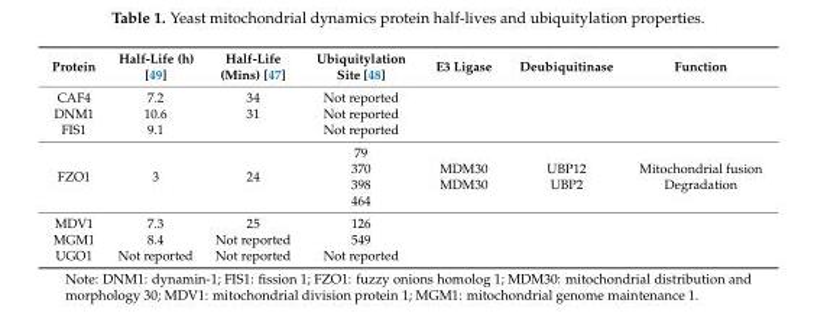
<table><thead><tr><td>Protein</td><td>Half-Life (h) [49]</td><td>Half-Life (Mins) [47]</td><td>Ubiquitylation Site [48]</td><td>E3 Ligase</td><td>Deubiquitinase</td><td>Function</td></tr></thead><tbody><tr><td>CAF4</td><td>7.2</td><td>34</td><td>Not reported</td><td></td><td></td><td></td></tr><tr><td>DNM1</td><td>10.6</td><td>31</td><td>Not reported</td><td></td><td></td><td></td></tr><tr><td>FIS1</td><td>9.1</td><td></td><td>Not reported</td><td></td><td></td><td></td></tr><tr><td>FZO1</td><td>3</td><td>24</td><td>79 370 398 464</td><td>MDM30 MDM30</td><td>UBP12 UBP2</td><td>Mitochondrial fusion Degradation</td></tr><tr><td>MDV1</td><td>7.3</td><td>25</td><td>126</td><td></td><td></td><td></td></tr><tr><td>MGM1</td><td>8.4</td><td>Not reported</td><td>549</td><td></td><td></td><td></td></tr><tr><td>UGO1</td><td>Not reported</td><td>Not reported</td><td>Not reported</td><td></td><td></td><td></td></tr></tbody></table>